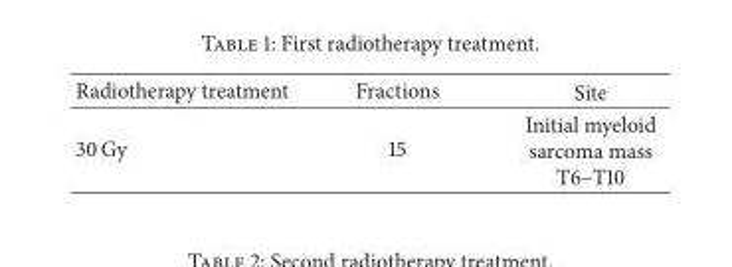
<table><thead><tr><td>Radiotherapy treatment</td><td>Fractions</td><td>Site</td></tr></thead><tbody><tr><td>30 Gy</td><td>15</td><td>Initial myeloid sarcoma mass T6–T10</td></tr></tbody></table>